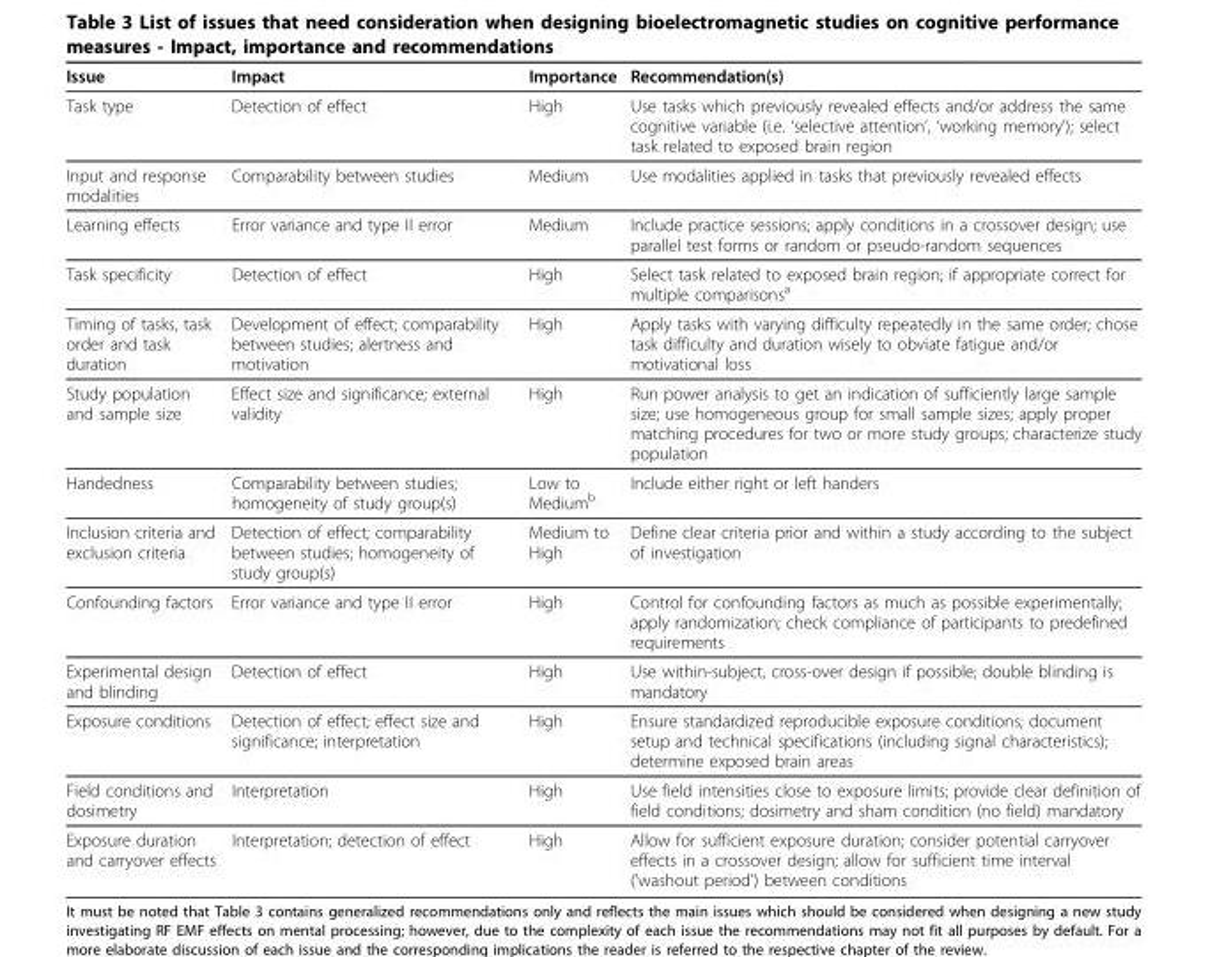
<table><thead><tr><td>Issue</td><td>Impact</td><td>Importance</td><td>Recommendation(s)</td></tr></thead><tbody><tr><td>Task type</td><td>Detection of effect</td><td>High</td><td>Use tasks which previously revealed effects and/or address the same cognitive variable (i.e. ‘selective attention’, ‘working memory’); select task related to exposed brain region</td></tr><tr><td>Input and response modalities</td><td>Comparability between studies</td><td>Medium</td><td>Use modalities applied in tasks that previously revealed effects</td></tr><tr><td>Learning effects</td><td>Error variance and type II error</td><td>Medium</td><td>Include practice sessions; apply conditions in a crossover design; use parallel test forms or random or pseudo-random sequences</td></tr><tr><td>Task specificity</td><td>Detection of effect</td><td>High</td><td>Select task related to exposed brain region; if appropriate correct for multiple comparisons<sup>a</sup></td></tr><tr><td>Timing of tasks, task order and task duration</td><td>Development of effect; comparability between studies; alertness and motivation</td><td>High</td><td>Apply tasks with varying difficulty repeatedly in the same order; chose task difficulty and duration wisely to obviate fatigue and/or motivational loss</td></tr><tr><td>Study population and sample size</td><td>Effect size and significance; external validity</td><td>High</td><td>Run power analysis to get an indication of sufficiently large sample size; use homogeneous group for small sample sizes; apply proper matching procedures for two or more study groups; characterize study population</td></tr><tr><td>Handedness</td><td>Comparability between studies; homogeneity of study group(s)</td><td>Low to Medium<sup>b</sup></td><td>Include either right or left handers</td></tr><tr><td>Inclusion criteria and exclusion criteria</td><td>Detection of effect; comparability between studies; homogeneity of study group(s)</td><td>Medium to High</td><td>Define clear criteria prior and within a study according to the subject of investigation</td></tr><tr><td>Confounding factors</td><td>Error variance and type II error</td><td>High</td><td>Control for confounding factors as much as possible experimentally; apply randomization; check compliance of participants to predefined requirements</td></tr><tr><td>Experimental design and blinding</td><td>Detection of effect</td><td>High</td><td>Use within-subject, cross-over design if possible; double blinding is mandatory</td></tr><tr><td>Exposure conditions</td><td>Detection of effect; effect size and significance; interpretation</td><td>High</td><td>Ensure standardized reproducible exposure conditions; document setup and technical specifications (including signal characteristics); determine exposed brain areas</td></tr><tr><td>Field conditions and dosimetry</td><td>Interpretation</td><td>High</td><td>Use field intensities close to exposure limits; provide clear definition of field conditions; dosimetry and sham condition (no field) mandatory</td></tr><tr><td>Exposure duration and carryover effects</td><td>Interpretation; detection of effect</td><td>High</td><td>Allow for sufficient exposure duration; consider potential carryover effects in a crossover design; allow for sufficient time interval (’washout period’) between conditions</td></tr></tbody></table>